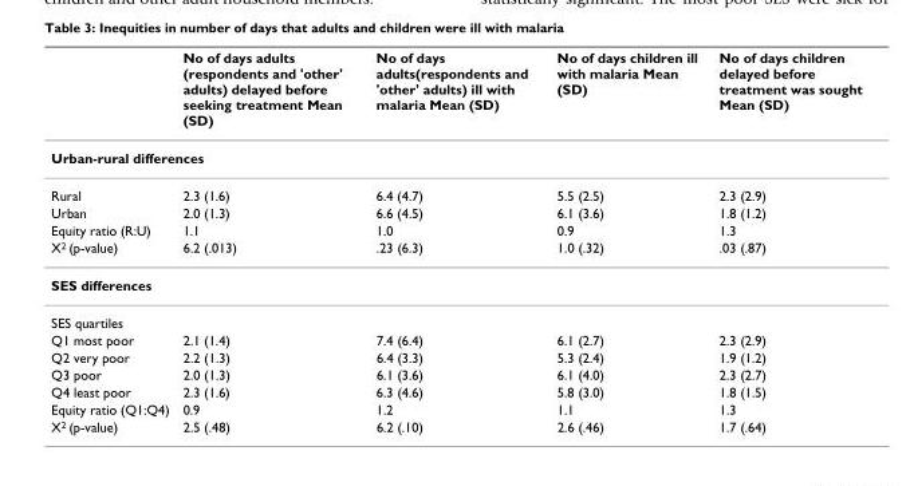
<table><thead><tr><td></td><td>No of days adults (respondents and &#x27;other&#x27; adults) delayed before seeking treatment Mean (SD)</td><td>No of days adults(respondents and &#x27;other&#x27; adults) ill with malaria Mean (SD)</td><td>No of days children ill with malaria Mean (SD)</td><td>No of days children delayed before treatment was sought Mean (SD)</td></tr></thead><tbody><tr><td colspan="5">Urban-rural differences</td></tr><tr><td>Rural</td><td>2.3 (1.6)</td><td>6.4 (4.7)</td><td>5.5 (2.5)</td><td>2.3 (2.9)</td></tr><tr><td>Urban</td><td>2.0 (1.3)</td><td>6.6 (4.5)</td><td>6.1 (3.6)</td><td>1.8 (1.2)</td></tr><tr><td>Equity ratio (R:U)</td><td>1.1</td><td>1.0</td><td>0.9</td><td>1.3</td></tr><tr><td>X<sup>2</sup> (p-value)</td><td>6.2 (.013)</td><td>.23 (6.3)</td><td>1.0 (.32)</td><td>.03 (.87)</td></tr><tr><td colspan="5">SES differences</td></tr><tr><td colspan="5">SES quartiles</td></tr><tr><td>Q1 most poor</td><td>2.1 (1.4)</td><td>7.4 (6.4)</td><td>6.1 (2.7)</td><td>2.3 (2.9)</td></tr><tr><td>Q2 very poor</td><td>2.2 (1.3)</td><td>6.4 (3.3)</td><td>5.3 (2.4)</td><td>1.9 (1.2)</td></tr><tr><td>Q3 poor</td><td>2.0 (1.3)</td><td>6.1 (3.6)</td><td>6.1 (4.0)</td><td>2.3 (2.7)</td></tr><tr><td>Q4 least poor</td><td>2.3 (1.6)</td><td>6.3 (4.6)</td><td>5.8 (3.0)</td><td>1.8 (1.5)</td></tr><tr><td>Equity ratio (Q1:Q4)</td><td>0.9</td><td>1.2</td><td>1.1</td><td>1.3</td></tr><tr><td>X<sup>2</sup> (p-value)</td><td>2.5 (.48)</td><td>6.2 (.10)</td><td>2.6 (.46)</td><td>1.7 (.64)</td></tr></tbody></table>